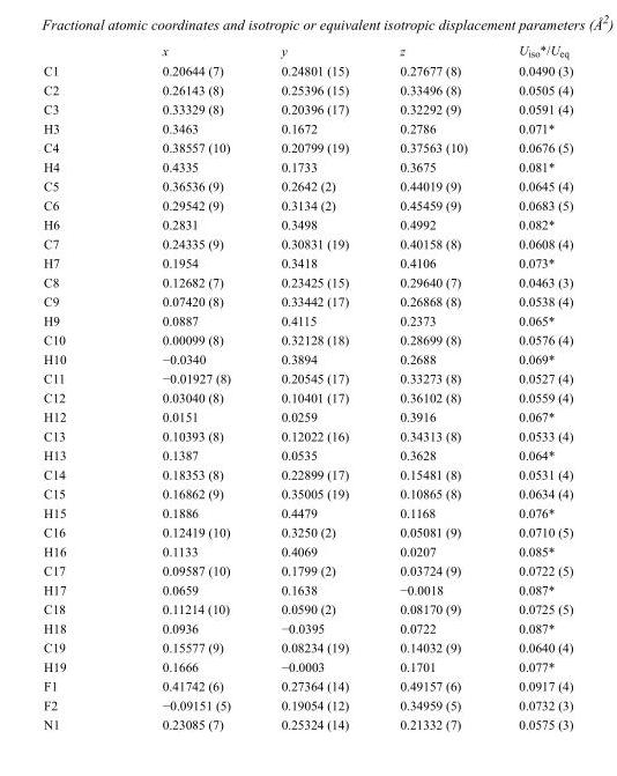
<table><thead><tr><td></td><td>x</td><td>y</td><td>z</td><td>U<sub>iso</sub>*/U<sub>eq</sub></td></tr></thead><tbody><tr><td>C1</td><td>0.20644 (7)</td><td>0.24801 (15)</td><td>0.27677 (8)</td><td>0.0490 (3)</td></tr><tr><td>C2</td><td>0.26143 (8)</td><td>0.25396 (15)</td><td>0.33496 (8)</td><td>0.0505 (4)</td></tr><tr><td>C3</td><td>0.33329 (8)</td><td>0.20396 (17)</td><td>0.32292 (9)</td><td>0.0591 (4)</td></tr><tr><td>H3</td><td>0.3463</td><td>0.1672</td><td>0.2786</td><td>0.071*</td></tr><tr><td>C4</td><td>0.38557 (10)</td><td>0.20799 (19)</td><td>0.37563 (10)</td><td>0.0676 (5)</td></tr><tr><td>H4</td><td>0.4335</td><td>0.1733</td><td>0.3675</td><td>0.081*</td></tr><tr><td>C5</td><td>0.36536 (9)</td><td>0.2642 (2)</td><td>0.44019 (9)</td><td>0.0645 (4)</td></tr><tr><td>C6</td><td>0.29542 (9)</td><td>0.3134 (2)</td><td>0.45459 (9)</td><td>0.0683 (5)</td></tr><tr><td>H6</td><td>0.2831</td><td>0.3498</td><td>0.4992</td><td>0.082*</td></tr><tr><td>C7</td><td>0.24335 (9)</td><td>0.30831 (19)</td><td>0.40158 (8)</td><td>0.0608 (4)</td></tr><tr><td>H7</td><td>0.1954</td><td>0.3418</td><td>0.4106</td><td>0.073*</td></tr><tr><td>C8</td><td>0.12682 (7)</td><td>0.23425 (15)</td><td>0.29640 (7)</td><td>0.0463 (3)</td></tr><tr><td>C9</td><td>0.07420 (8)</td><td>0.33442 (17)</td><td>0.26868 (8)</td><td>0.0538 (4)</td></tr><tr><td>H9</td><td>0.0887</td><td>0.4115</td><td>0.2373</td><td>0.065*</td></tr><tr><td>C10</td><td>0.00099 (8)</td><td>0.32128 (18)</td><td>0.28699 (8)</td><td>0.0576 (4)</td></tr><tr><td>H10</td><td>−0.0340</td><td>0.3894</td><td>0.2688</td><td>0.069*</td></tr><tr><td>C11</td><td>−0.01927 (8)</td><td>0.20545 (17)</td><td>0.33273 (8)</td><td>0.0527 (4)</td></tr><tr><td>C12</td><td>0.03040 (8)</td><td>0.10401 (17)</td><td>0.36102 (8)</td><td>0.0559 (4)</td></tr><tr><td>H12</td><td>0.0151</td><td>0.0259</td><td>0.3916</td><td>0.067*</td></tr><tr><td>C13</td><td>0.10393 (8)</td><td>0.12022 (16)</td><td>0.34313 (8)</td><td>0.0533 (4)</td></tr><tr><td>H13</td><td>0.1387</td><td>0.0535</td><td>0.3628</td><td>0.064*</td></tr><tr><td>C14</td><td>0.18353 (8)</td><td>0.22899 (17)</td><td>0.15481 (8)</td><td>0.0531 (4)</td></tr><tr><td>C15</td><td>0.16862 (9)</td><td>0.35005 (19)</td><td>0.10865 (8)</td><td>0.0634 (4)</td></tr><tr><td>H15</td><td>0.1886</td><td>0.4479</td><td>0.1168</td><td>0.076*</td></tr><tr><td>C16</td><td>0.12419 (10)</td><td>0.3250 (2)</td><td>0.05081 (9)</td><td>0.0710 (5)</td></tr><tr><td>H16</td><td>0.1133</td><td>0.4069</td><td>0.0207</td><td>0.085*</td></tr><tr><td>C17</td><td>0.09587 (10)</td><td>0.1799 (2)</td><td>0.03724 (9)</td><td>0.0722 (5)</td></tr><tr><td>H17</td><td>0.0659</td><td>0.1638</td><td>−0.0018</td><td>0.087*</td></tr><tr><td>C18</td><td>0.11214 (10)</td><td>0.0590 (2)</td><td>0.08170 (9)</td><td>0.0725 (5)</td></tr><tr><td>H18</td><td>0.0936</td><td>−0.0395</td><td>0.0722</td><td>0.087*</td></tr><tr><td>C19</td><td>0.15577 (9)</td><td>0.08234 (19)</td><td>0.14032 (9)</td><td>0.0640 (4)</td></tr><tr><td>H19</td><td>0.1666</td><td>−0.0003</td><td>0.1701</td><td>0.077*</td></tr><tr><td>F1</td><td>0.41742 (6)</td><td>0.27364 (14)</td><td>0.49157 (6)</td><td>0.0917 (4)</td></tr><tr><td>F2</td><td>−0.09151 (5)</td><td>0.19054 (12)</td><td>0.34959 (5)</td><td>0.0732 (3)</td></tr><tr><td>N1</td><td>0.23085 (7)</td><td>0.25324 (14)</td><td>0.21332 (7)</td><td>0.0575 (3)</td></tr></tbody></table>